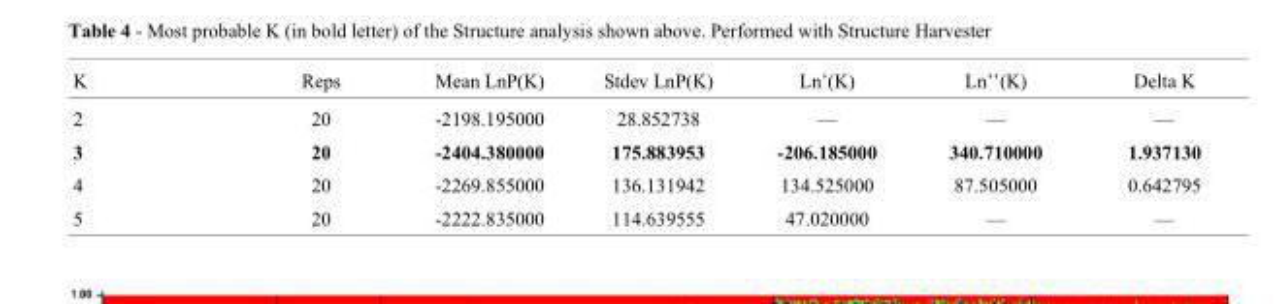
<table><thead><tr><td>K</td><td>Reps</td><td>Mean LnP(K)</td><td>Stdev LnP(K)</td><td>Ln’(K)</td><td>Ln’’(K)</td><td>Delta K</td></tr></thead><tbody><tr><td>2</td><td>20</td><td>-2198.195000</td><td>28.852738</td><td>—</td><td>—</td><td>—</td></tr><tr><td>3</td><td>20</td><td>-2404.380000</td><td>175.883953</td><td>-206.185000</td><td>340.710000</td><td>1.937130</td></tr><tr><td>4</td><td>20</td><td>-2269.855000</td><td>136.131942</td><td>134.525000</td><td>87.505000</td><td>0.642795</td></tr><tr><td>5</td><td>20</td><td>-2222.835000</td><td>114.639555</td><td>47.020000</td><td>—</td><td>—</td></tr></tbody></table>